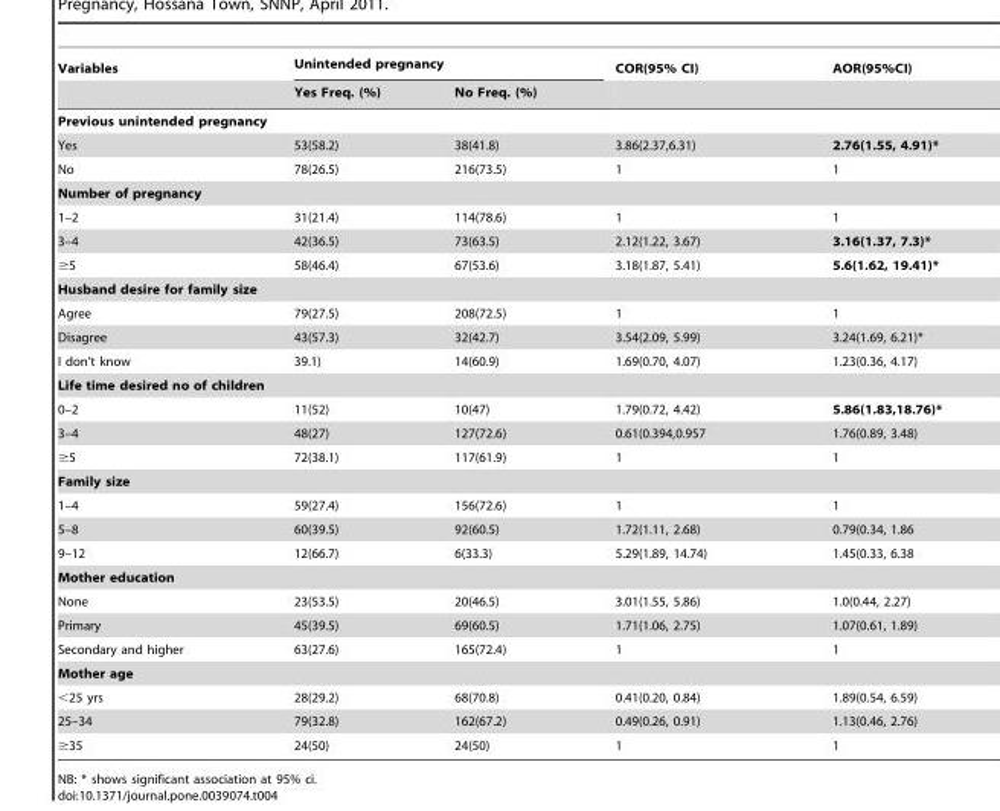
<table><thead><tr><td rowspan="2">Variables</td><td colspan="2">Unintended pregnancy</td><td rowspan="2">COR(95% CI)</td><td rowspan="2">AOR(95%CI)</td></tr><tr><td>Yes Freq. (%)</td><td>No Freq. (%)</td></tr></thead><tbody><tr><td colspan="5">Previous unintended pregnancy</td></tr><tr><td>Yes</td><td>53(58.2)</td><td>38(41.8)</td><td>3.86(2.37,6.31)</td><td>2.76(1.55, 4.91)*</td></tr><tr><td>No</td><td>78(26.5)</td><td>216(73.5)</td><td>1</td><td>1</td></tr><tr><td colspan="5">Number of pregnancy</td></tr><tr><td>1–2</td><td>31(21.4)</td><td>114(78.6)</td><td>1</td><td>1</td></tr><tr><td>3–4</td><td>42(36.5)</td><td>73(63.5)</td><td>2.12(1.22, 3.67)</td><td>3.16(1.37, 7.3)*</td></tr><tr><td>≥5</td><td>58(46.4)</td><td>67(53.6)</td><td>3.18(1.87, 5.41)</td><td>5.6(1.62, 19.41)*</td></tr><tr><td colspan="5">Husband desire for family size</td></tr><tr><td>Agree</td><td>79(27.5)</td><td>208(72.5)</td><td>1</td><td>1</td></tr><tr><td>Disagree</td><td>43(57.3)</td><td>32(42.7)</td><td>3.54(2.09, 5.99)</td><td>3.24(1.69, 6.21)*</td></tr><tr><td>I don’t know</td><td>39.1)</td><td>14(60.9)</td><td>1.69(0.70, 4.07)</td><td>1.23(0.36, 4.17)</td></tr><tr><td colspan="5">Life time desired no of children</td></tr><tr><td>0–2</td><td>11(52)</td><td>10(47)</td><td>1.79(0.72, 4.42)</td><td>5.86(1.83,18.76)*</td></tr><tr><td>3–4</td><td>48(27)</td><td>127(72.6)</td><td>0.61(0.394,0.957</td><td>1.76(0.89, 3.48)</td></tr><tr><td>≥5</td><td>72(38.1)</td><td>117(61.9)</td><td>1</td><td>1</td></tr><tr><td colspan="5">Family size</td></tr><tr><td>1–4</td><td>59(27.4)</td><td>156(72.6)</td><td>1</td><td>1</td></tr><tr><td>5–8</td><td>60(39.5)</td><td>92(60.5)</td><td>1.72(1.11, 2.68)</td><td>0.79(0.34, 1.86</td></tr><tr><td>9–12</td><td>12(66.7)</td><td>6(33.3)</td><td>5.29(1.89, 14.74)</td><td>1.45(0.33, 6.38</td></tr><tr><td colspan="5">Mother education</td></tr><tr><td>None</td><td>23(53.5)</td><td>20(46.5)</td><td>3.01(1.55, 5.86)</td><td>1.0(0.44, 2.27)</td></tr><tr><td>Primary</td><td>45(39.5)</td><td>69(60.5)</td><td>1.71(1.06, 2.75)</td><td>1.07(0.61, 1.89)</td></tr><tr><td>Secondary and higher</td><td>63(27.6)</td><td>165(72.4)</td><td>1</td><td>1</td></tr><tr><td colspan="5">Mother age</td></tr><tr><td>&lt;25 yrs</td><td>28(29.2)</td><td>68(70.8)</td><td>0.41(0.20, 0.84)</td><td>1.89(0.54, 6.59)</td></tr><tr><td>25–34</td><td>79(32.8)</td><td>162(67.2)</td><td>0.49(0.26, 0.91)</td><td>1.13(0.46, 2.76)</td></tr><tr><td>≥35</td><td>24(50)</td><td>24(50)</td><td>1</td><td>1</td></tr></tbody></table>